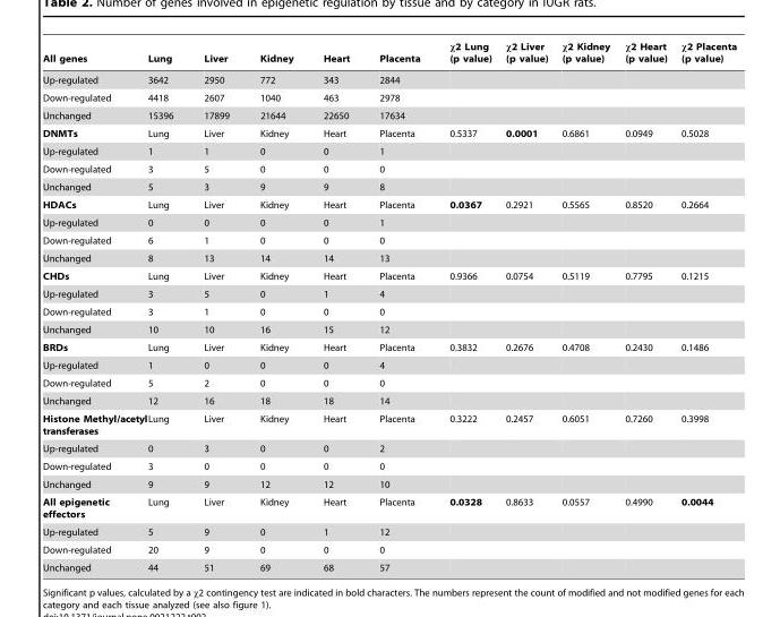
<table><thead><tr><td>All genes</td><td>Lung</td><td>Liver</td><td>Kidney</td><td>Heart</td><td>Placenta</td><td>χ2 Lung (p value)</td><td>χ2 Liver (p value)</td><td>χ2 Kidney (p value)</td><td>χ2 Heart (p value)</td><td>χ2 Placenta (p value)</td></tr></thead><tbody><tr><td>Up-regulated</td><td>3642</td><td>2950</td><td>772</td><td>343</td><td>2844</td><td></td><td></td><td></td><td></td><td></td></tr><tr><td>Down-regulated</td><td>4418</td><td>2607</td><td>1040</td><td>463</td><td>2978</td><td></td><td></td><td></td><td></td><td></td></tr><tr><td>Unchanged</td><td>15396</td><td>17899</td><td>21644</td><td>22650</td><td>17634</td><td></td><td></td><td></td><td></td><td></td></tr><tr><td>DNMTs</td><td>Lung</td><td>Liver</td><td>Kidney</td><td>Heart</td><td>Placenta</td><td>0.5337</td><td>0.0001</td><td>0.6861</td><td>0.0949</td><td>0.5028</td></tr><tr><td>Up-regulated</td><td>1</td><td>1</td><td>0</td><td>0</td><td>1</td><td></td><td></td><td></td><td></td><td></td></tr><tr><td>Down-regulated</td><td>3</td><td>5</td><td>0</td><td>0</td><td>0</td><td></td><td></td><td></td><td></td><td></td></tr><tr><td>Unchanged</td><td>5</td><td>3</td><td>9</td><td>9</td><td>8</td><td></td><td></td><td></td><td></td><td></td></tr><tr><td>HDACs</td><td>Lung</td><td>Liver</td><td>Kidney</td><td>Heart</td><td>Placenta</td><td>0.0367</td><td>0.2921</td><td>0.5565</td><td>0.8520</td><td>0.2664</td></tr><tr><td>Up-regulated</td><td>0</td><td>0</td><td>0</td><td>0</td><td>1</td><td></td><td></td><td></td><td></td><td></td></tr><tr><td>Down-regulated</td><td>6</td><td>1</td><td>0</td><td>0</td><td>0</td><td></td><td></td><td></td><td></td><td></td></tr><tr><td>Unchanged</td><td>8</td><td>13</td><td>14</td><td>14</td><td>13</td><td></td><td></td><td></td><td></td><td></td></tr><tr><td>CHDs</td><td>Lung</td><td>Liver</td><td>Kidney</td><td>Heart</td><td>Placenta</td><td>0.9366</td><td>0.0754</td><td>0.5119</td><td>0.7795</td><td>0.1215</td></tr><tr><td>Up-regulated</td><td>3</td><td>5</td><td>0</td><td>1</td><td>4</td><td></td><td></td><td></td><td></td><td></td></tr><tr><td>Down-regulated</td><td>3</td><td>1</td><td>0</td><td>0</td><td>0</td><td></td><td></td><td></td><td></td><td></td></tr><tr><td>Unchanged</td><td>10</td><td>10</td><td>16</td><td>15</td><td>12</td><td></td><td></td><td></td><td></td><td></td></tr><tr><td>BRDs</td><td>Lung</td><td>Liver</td><td>Kidney</td><td>Heart</td><td>Placenta</td><td>0.3832</td><td>0.2676</td><td>0.4708</td><td>0.2430</td><td>0.1486</td></tr><tr><td>Up-regulated</td><td>1</td><td>0</td><td>0</td><td>0</td><td>4</td><td></td><td></td><td></td><td></td><td></td></tr><tr><td>Down-regulated</td><td>5</td><td>2</td><td>0</td><td>0</td><td>0</td><td></td><td></td><td></td><td></td><td></td></tr><tr><td>Unchanged</td><td>12</td><td>16</td><td>18</td><td>18</td><td>14</td><td></td><td></td><td></td><td></td><td></td></tr><tr><td>Histone Methyl/acetyl transferases</td><td>Lung</td><td>Liver</td><td>Kidney</td><td>Heart</td><td>Placenta</td><td>0.3222</td><td>0.2457</td><td>0.6051</td><td>0.7260</td><td>0.3998</td></tr><tr><td>Up-regulated</td><td>0</td><td>3</td><td>0</td><td>0</td><td>2</td><td></td><td></td><td></td><td></td><td></td></tr><tr><td>Down-regulated</td><td>3</td><td>0</td><td>0</td><td>0</td><td>0</td><td></td><td></td><td></td><td></td><td></td></tr><tr><td>Unchanged</td><td>9</td><td>9</td><td>12</td><td>12</td><td>10</td><td></td><td></td><td></td><td></td><td></td></tr><tr><td>All epigenetic effectors</td><td>Lung</td><td>Liver</td><td>Kidney</td><td>Heart</td><td>Placenta</td><td>0.0328</td><td>0.8633</td><td>0.0557</td><td>0.4990</td><td>0.0044</td></tr><tr><td>Up-regulated</td><td>5</td><td>9</td><td>0</td><td>1</td><td>12</td><td></td><td></td><td></td><td></td><td></td></tr><tr><td>Down-regulated</td><td>20</td><td>9</td><td>0</td><td>0</td><td>0</td><td></td><td></td><td></td><td></td><td></td></tr><tr><td>Unchanged</td><td>44</td><td>51</td><td>69</td><td>68</td><td>57</td><td></td><td></td><td></td><td></td><td></td></tr></tbody></table>